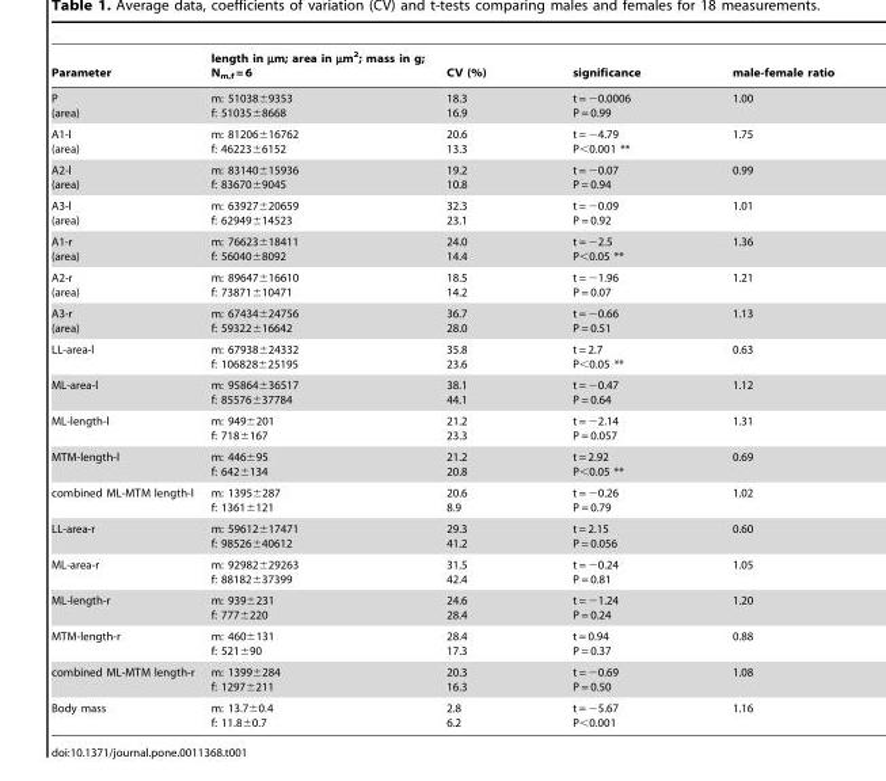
<table><thead><tr><td>Parameter</td><td>length in µm; area in µm<sup>2</sup>; mass in g; N<sub>m,f</sub> = 6</td><td>CV (%)</td><td>significance</td><td>male-female ratio</td></tr></thead><tbody><tr><td>P (area)</td><td>m: 51038±9353 f: 51035±8668</td><td>18.3 16.9</td><td>t = −0.0006 P = 0.99</td><td>1.00</td></tr><tr><td>A1-l (area)</td><td>m: 81206±16762 f: 46223±6152</td><td>20.6 13.3</td><td>t = −4.79 P&lt;0.001 **</td><td>1.75</td></tr><tr><td>A2-l (area)</td><td>m: 83140±15936 f: 83670±9045</td><td>19.2 10.8</td><td>t = −0.07 P = 0.94</td><td>0.99</td></tr><tr><td>A3-l (area)</td><td>m: 63927±20659 f: 62949±14523</td><td>32.3 23.1</td><td>t = −0.09 P = 0.92</td><td>1.01</td></tr><tr><td>A1-r (area)</td><td>m: 76623±18411 f: 56040±8092</td><td>24.0 14.4</td><td>t = −2.5 P&lt;0.05 **</td><td>1.36</td></tr><tr><td>A2-r (area)</td><td>m: 89647±16610 f: 73871±10471</td><td>18.5 14.2</td><td>t = −1.96 P = 0.07</td><td>1.21</td></tr><tr><td>A3-r (area)</td><td>m: 67434±24756 f: 59322±16642</td><td>36.7 28.0</td><td>t = −0.66 P = 0.51</td><td>1.13</td></tr><tr><td>LL-area-l</td><td>m: 67938±24332 f: 106828±25195</td><td>35.8 23.6</td><td>t = 2.7 P&lt;0.05 **</td><td>0.63</td></tr><tr><td>ML-area-l</td><td>m: 95864±36517 f: 85576±37784</td><td>38.1 44.1</td><td>t = −0.47 P = 0.64</td><td>1.12</td></tr><tr><td>ML-length-l</td><td>m: 949±201 f: 718±167</td><td>21.2 23.3</td><td>t = −2.14 P = 0.057</td><td>1.31</td></tr><tr><td>MTM-length-l</td><td>m: 446±95 f: 642±134</td><td>21.2 20.8</td><td>t = 2.92 P&lt;0.05 **</td><td>0.69</td></tr><tr><td>combined ML-MTM length-l</td><td>m: 1395±287 f: 1361±121</td><td>20.6 8.9</td><td>t = −0.26 P = 0.79</td><td>1.02</td></tr><tr><td>LL-area-r</td><td>m: 59612±17471 f: 98526±40612</td><td>29.3 41.2</td><td>t = 2.15 P = 0.056</td><td>0.60</td></tr><tr><td>ML-area-r</td><td>m: 92982±29263 f: 88182±37399</td><td>31.5 42.4</td><td>t = −0.24 P = 0.81</td><td>1.05</td></tr><tr><td>ML-length-r</td><td>m: 939±231 f: 777±220</td><td>24.6 28.4</td><td>t = −1.24 P = 0.24</td><td>1.20</td></tr><tr><td>MTM-length-r</td><td>m: 460±131 f: 521±90</td><td>28.4 17.3</td><td>t = 0.94 P = 0.37</td><td>0.88</td></tr><tr><td>combined ML-MTM length-r</td><td>m: 1399±284 f: 1297±211</td><td>20.3 16.3</td><td>t = −0.69 P = 0.50</td><td>1.08</td></tr><tr><td>Body mass</td><td>m: 13.7±0.4 f: 11.8±0.7</td><td>2.8 6.2</td><td>t = −5.67 P&lt;0.001</td><td>1.16</td></tr></tbody></table>